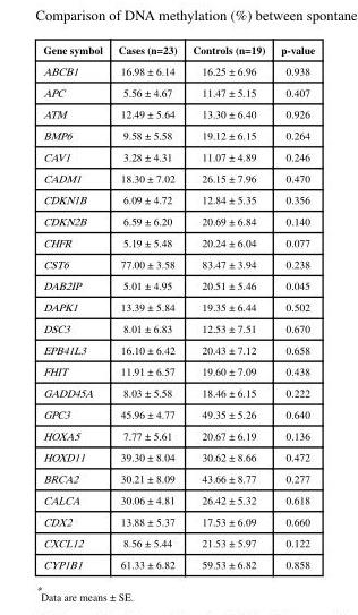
<table><thead><tr><td>Gene symbol</td><td>Cases (n=23)</td><td>Controls (n=19)</td><td>p-value</td></tr></thead><tbody><tr><td>ABCB1</td><td>16.98 ± 6.14</td><td>16.25 ± 6.96</td><td>0.938</td></tr><tr><td>APC</td><td>5.56 ± 4.67</td><td>11.47 ± 5.15</td><td>0.407</td></tr><tr><td>ATM</td><td>12.49 ± 5.64</td><td>13.30 ± 6.40</td><td>0.926</td></tr><tr><td>BMP6</td><td>9.58 ± 5.58</td><td>19.12 ± 6.15</td><td>0.264</td></tr><tr><td>CAV1</td><td>3.28 ± 4.31</td><td>11.07 ± 4.89</td><td>0.246</td></tr><tr><td>CADM1</td><td>18.30 ± 7.02</td><td>26.15 ± 7.96</td><td>0.470</td></tr><tr><td>CDKN1B</td><td>6.09 ± 4.72</td><td>12.84 ± 5.35</td><td>0.356</td></tr><tr><td>CDKN2B</td><td>6.59 ± 6.20</td><td>20.69 ± 6.84</td><td>0.140</td></tr><tr><td>CHFR</td><td>5.19 ± 5.48</td><td>20.24 ± 6.04</td><td>0.077</td></tr><tr><td>CST6</td><td>77.00 ± 3.58</td><td>83.47 ± 3.94</td><td>0.238</td></tr><tr><td>DAB2IP</td><td>5.01 ± 4.95</td><td>20.51 ± 5.46</td><td>0.045</td></tr><tr><td>DAPK1</td><td>13.39 ± 5.84</td><td>19.35 ± 6.44</td><td>0.502</td></tr><tr><td>DSC3</td><td>8.01 ± 6.83</td><td>12.53 ± 7.51</td><td>0.670</td></tr><tr><td>EPB41L3</td><td>16.10 ± 6.42</td><td>20.43 ± 7.12</td><td>0.658</td></tr><tr><td>FHIT</td><td>11.91 ± 6.57</td><td>19.60 ± 7.09</td><td>0.438</td></tr><tr><td>GADD45A</td><td>8.03 ± 5.58</td><td>18.46 ± 6.15</td><td>0.222</td></tr><tr><td>GPC3</td><td>45.96 ± 4.77</td><td>49.35 ± 5.26</td><td>0.640</td></tr><tr><td>HOXA5</td><td>7.77 ± 5.61</td><td>20.67 ± 6.19</td><td>0.136</td></tr><tr><td>HOXD11</td><td>39.30 ± 8.04</td><td>30.62 ± 8.66</td><td>0.472</td></tr><tr><td>BRCA2</td><td>30.21 ± 8.09</td><td>43.66 ± 8.77</td><td>0.277</td></tr><tr><td>CALCA</td><td>30.06 ± 4.81</td><td>26.42 ± 5.32</td><td>0.618</td></tr><tr><td>CDX2</td><td>13.88 ± 5.37</td><td>17.53 ± 6.09</td><td>0.660</td></tr><tr><td>CXCL12</td><td>8.56 ± 5.44</td><td>21.53 ± 5.97</td><td>0.122</td></tr><tr><td>CYP1B1</td><td>61.33 ± 6.82</td><td>59.53 ± 6.82</td><td>0.858</td></tr></tbody></table>